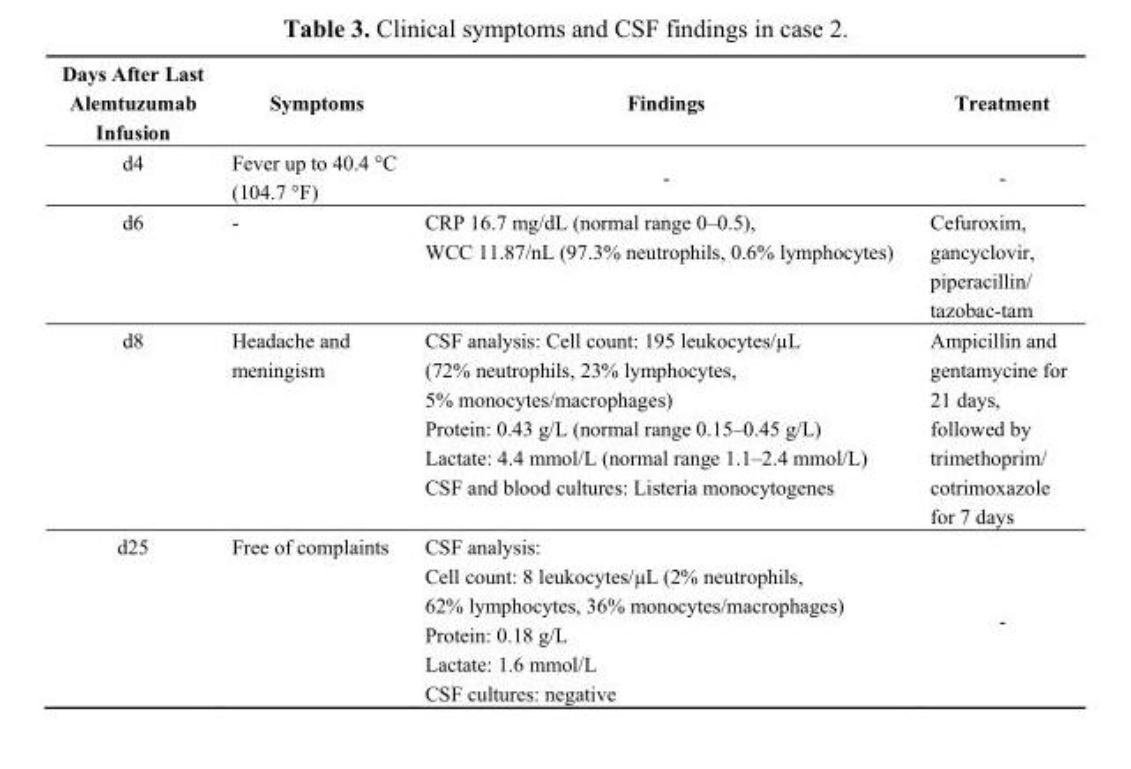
<table><thead><tr><td>Days After Last Alemtuzumab Infusion</td><td>Symptoms</td><td>Findings</td><td>Treatment</td></tr></thead><tbody><tr><td>d4</td><td>Fever up to 40.4 °C (104.7 °F)</td><td>-</td><td>-</td></tr><tr><td>d6</td><td>-</td><td>CRP 16.7 mg/dL (normal range 0–0.5), WCC 11.87/nL (97.3% neutrophils, 0.6% lymphocytes)</td><td>Cefuroxim, gancyclovir, piperacillin/ tazobac-tam</td></tr><tr><td>d8</td><td>Headache and meningism</td><td>CSF analysis: Cell count: 195 leukocytes/µL (72% neutrophils, 23% lymphocytes, 5% monocytes/macrophages) Protein: 0.43 g/L (normal range 0.15–0.45 g/L) Lactate: 4.4 mmol/L (normal range 1.1–2.4 mmol/L) CSF and blood cultures: Listeria monocytogenes</td><td>Ampicillin and gentamycine for 21 days, followed by trimethoprim/ cotrimoxazole for 7 days</td></tr><tr><td>d25</td><td>Free of complaints</td><td>CSF analysis: Cell count: 8 leukocytes/µL (2% neutrophils, 62% lymphocytes, 36% monocytes/macrophages) Protein: 0.18 g/L Lactate: 1.6 mmol/L CSF cultures: negative</td><td>-</td></tr></tbody></table>